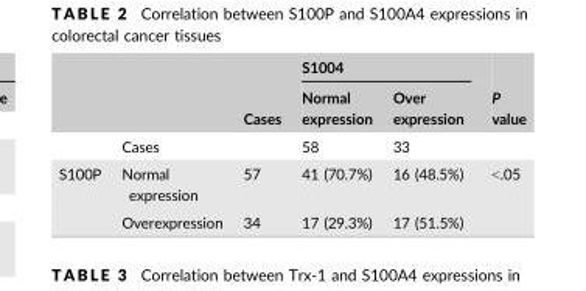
<table><thead><tr><td rowspan="2"></td><td rowspan="2"></td><td rowspan="2">Cases</td><td colspan="2">S1004</td><td rowspan="2">P value</td></tr><tr><td>Normal expression</td><td>Over expression</td></tr></thead><tbody><tr><td></td><td>Cases</td><td></td><td>58</td><td>33</td><td></td></tr><tr><td rowspan="2">S100P</td><td>Normal expression</td><td>57</td><td>41 (70.7%)</td><td>16 (48.5%)</td><td>˂.05</td></tr><tr><td>Overexpression</td><td>34</td><td>17 (29.3%)</td><td>17 (51.5%)</td><td></td></tr></tbody></table>